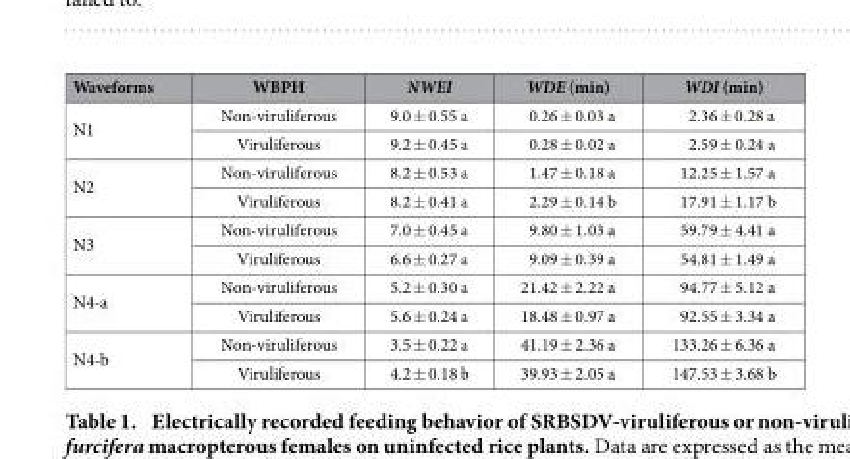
<table><thead><tr><td>Waveforms</td><td>WBPH</td><td>NWEI</td><td>WDE (min)</td><td>WDI (min)</td></tr></thead><tbody><tr><td rowspan="2">N1</td><td>Non-viruliferous</td><td>9.0 ± 0.55 a</td><td>0.26 ± 0.03 a</td><td>2.36 ± 0.28 a</td></tr><tr><td>Viruliferous</td><td>9.2 ± 0.45 a</td><td>0.28 ± 0.02 a</td><td>2.59 ± 0.24 a</td></tr><tr><td rowspan="2">N2</td><td>Non-viruliferous</td><td>8.2 ± 0.53 a</td><td>1.47 ± 0.18 a</td><td>12.25 ± 1.57 a</td></tr><tr><td>Viruliferous</td><td>8.2 ± 0.41 a</td><td>2.29 ± 0.14 b</td><td>17.91 ± 1.17 b</td></tr><tr><td rowspan="2">N3</td><td>Non-viruliferous</td><td>7.0 ± 0.45 a</td><td>9.80 ± 1.03 a</td><td>59.79 ± 4.41 a</td></tr><tr><td>Viruliferous</td><td>6.6 ± 0.27 a</td><td>9.09 ± 0.39 a</td><td>54.81 ± 1.49 a</td></tr><tr><td rowspan="2">N4-a</td><td>Non-viruliferous</td><td>5.2 ± 0.30 a</td><td>21.42 ± 2.22 a</td><td>94.77 ± 5.12 a</td></tr><tr><td>Viruliferous</td><td>5.6 ± 0.24 a</td><td>18.48 ± 0.97 a</td><td>92.55 ± 3.34 a</td></tr><tr><td rowspan="2">N4-b</td><td>Non-viruliferous</td><td>3.5 ± 0.22 a</td><td>41.19 ± 2.36 a</td><td>133.26 ± 6.36 a</td></tr><tr><td>Viruliferous</td><td>4.2 ± 0.18 b</td><td>39.93 ± 2.05 a</td><td>147.53 ± 3.68 b</td></tr></tbody></table>